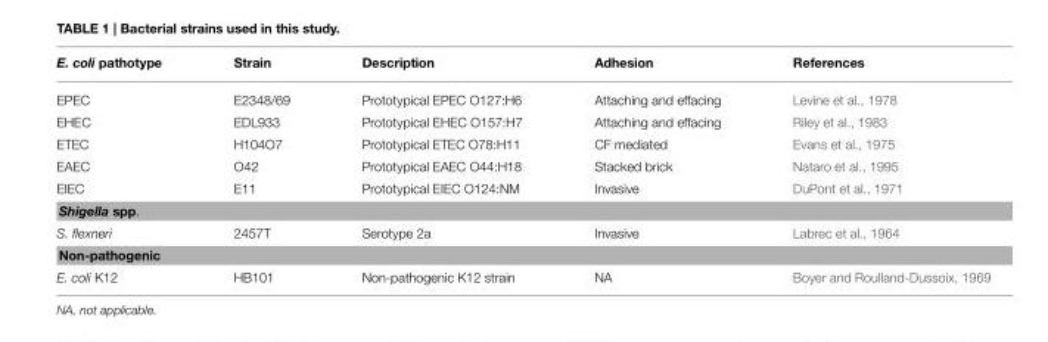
<table><thead><tr><td>E. coli pathotype</td><td>Strain</td><td>Description</td><td>Adhesion</td><td>References</td></tr></thead><tbody><tr><td>EPEC</td><td>E2348/69</td><td>Prototypical EPEC O127:H6</td><td>Attaching and effacing</td><td>Levine et al., 1978</td></tr><tr><td>EHEC</td><td>EDL933</td><td>Prototypical EHEC O157:H7</td><td>Attaching and effacing</td><td>Riley et al., 1983</td></tr><tr><td>ETEC</td><td>H104O7</td><td>Prototypical ETEC O78:H11</td><td>CF mediated</td><td>Evans et al., 1975</td></tr><tr><td>EAEC</td><td>O42</td><td>Prototypical EAEC O44:H18</td><td>Stacked brick</td><td>Nataro et al., 1995</td></tr><tr><td>EIEC</td><td>E11</td><td>Prototypical EIEC O124:NM</td><td>Invasive</td><td>DuPont et al., 1971</td></tr><tr><td colspan="5">Shigella spp.</td></tr><tr><td>S. flexneri</td><td>2457T</td><td>Serotype 2a</td><td>Invasive</td><td>Labrec et al., 1964</td></tr><tr><td colspan="5">Non-pathogenic</td></tr><tr><td>E. coli K12</td><td>HB101</td><td>Non-pathogenic K12 strain</td><td>NA</td><td>Boyer and Roulland-Dussoix, 1969</td></tr></tbody></table>